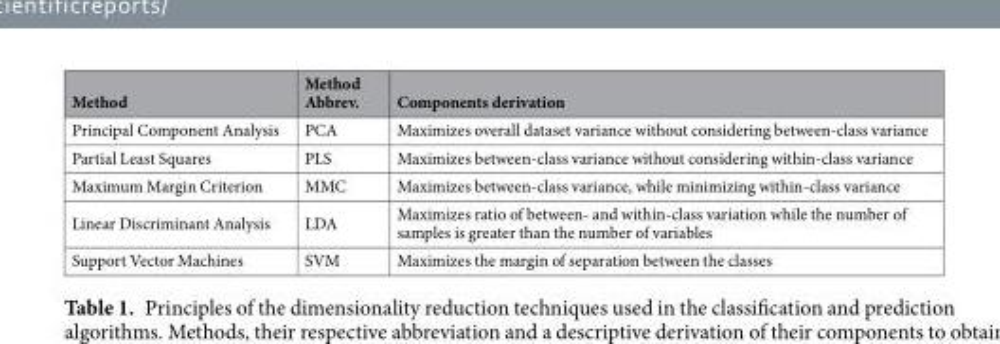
<table><thead><tr><td>Method</td><td>Method Abbrev.</td><td>Components derivation</td></tr></thead><tbody><tr><td>Principal Component Analysis</td><td>PCA</td><td>Maximizes overall dataset variance without considering between-class variance</td></tr><tr><td>Partial Least Squares</td><td>PLS</td><td>Maximizes between-class variance without considering within-class variance</td></tr><tr><td>Maximum Margin Criterion</td><td>MMC</td><td>Maximizes between-class variance, while minimizing within-class variance</td></tr><tr><td>Linear Discriminant Analysis</td><td>LDA</td><td>Maximizes ratio of between- and within-class variation while the number of samples is greater than the number of variables</td></tr><tr><td>Support Vector Machines</td><td>SVM</td><td>Maximizes the margin of separation between the classes</td></tr></tbody></table>